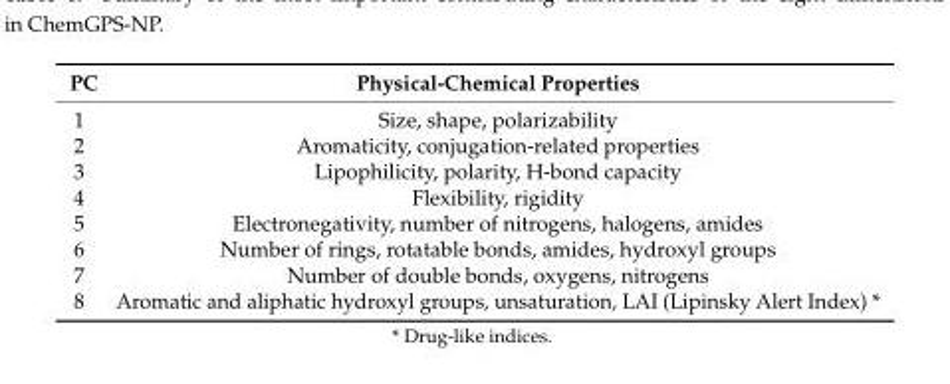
<table><thead><tr><td>PC</td><td>Physical-Chemical Properties</td></tr></thead><tbody><tr><td>1</td><td>Size, shape, polarizability</td></tr><tr><td>2</td><td>Aromaticity, conjugation-related properties</td></tr><tr><td>3</td><td>Lipophilicity, polarity, H-bond capacity</td></tr><tr><td>4</td><td>Flexibility, rigidity</td></tr><tr><td>5</td><td>Electronegativity, number of nitrogens, halogens, amides</td></tr><tr><td>6</td><td>Number of rings, rotatable bonds, amides, hydroxyl groups</td></tr><tr><td>7</td><td>Number of double bonds, oxygens, nitrogens</td></tr><tr><td>8</td><td>Aromatic and aliphatic hydroxyl groups, unsaturation, LAI (Lipinsky Alert Index) *</td></tr></tbody></table>